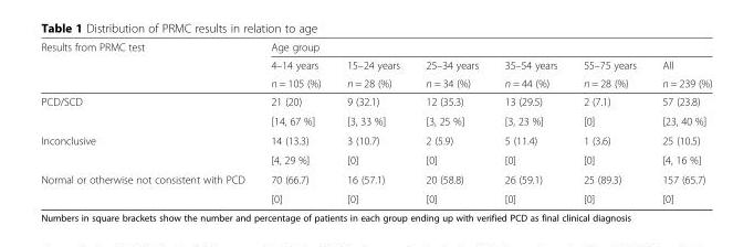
<table><thead><tr><td rowspan="3">Results from PRMC test</td><td colspan="6">Age group</td></tr><tr><td rowspan="2">4–14 years n = 105 (%)</td><td rowspan="2">15–24 years n = 28 (%)</td><td rowspan="2">25–34 years n = 34 (%)</td><td rowspan="2">35–54 years n = 44 (%)</td><td rowspan="2">55–75 years n = 28 (%)</td><td rowspan="2">All n = 239 (%)</td></tr><tr></tr></thead><tbody><tr><td rowspan="2">PCD/SCD</td><td>21 (20)</td><td>9 (32.1)</td><td>12 (35.3)</td><td>13 (29.5)</td><td>2 (7.1)</td><td>57 (23.8)</td></tr><tr><td>[14, 67 %]</td><td>[3, 33 %]</td><td>[3, 25 %]</td><td>[3, 23 %]</td><td>[0]</td><td>[23, 40 %]</td></tr><tr><td rowspan="2">Inconclusive</td><td>14 (13.3)</td><td>3 (10.7)</td><td>2 (5.9)</td><td>5 (11.4)</td><td>1 (3.6)</td><td>25 (10.5)</td></tr><tr><td>[4, 29 %]</td><td>[0]</td><td>[0]</td><td>[0]</td><td>[0]</td><td>[4, 16 %]</td></tr><tr><td rowspan="2">Normal or otherwise not consistent with PCD</td><td>70 (66.7)</td><td>16 (57.1)</td><td>20 (58.8)</td><td>26 (59.1)</td><td>25 (89.3)</td><td>157 (65.7)</td></tr><tr><td>[0]</td><td>[0]</td><td>[0]</td><td>[0]</td><td>[0]</td><td>[0]</td></tr></tbody></table>